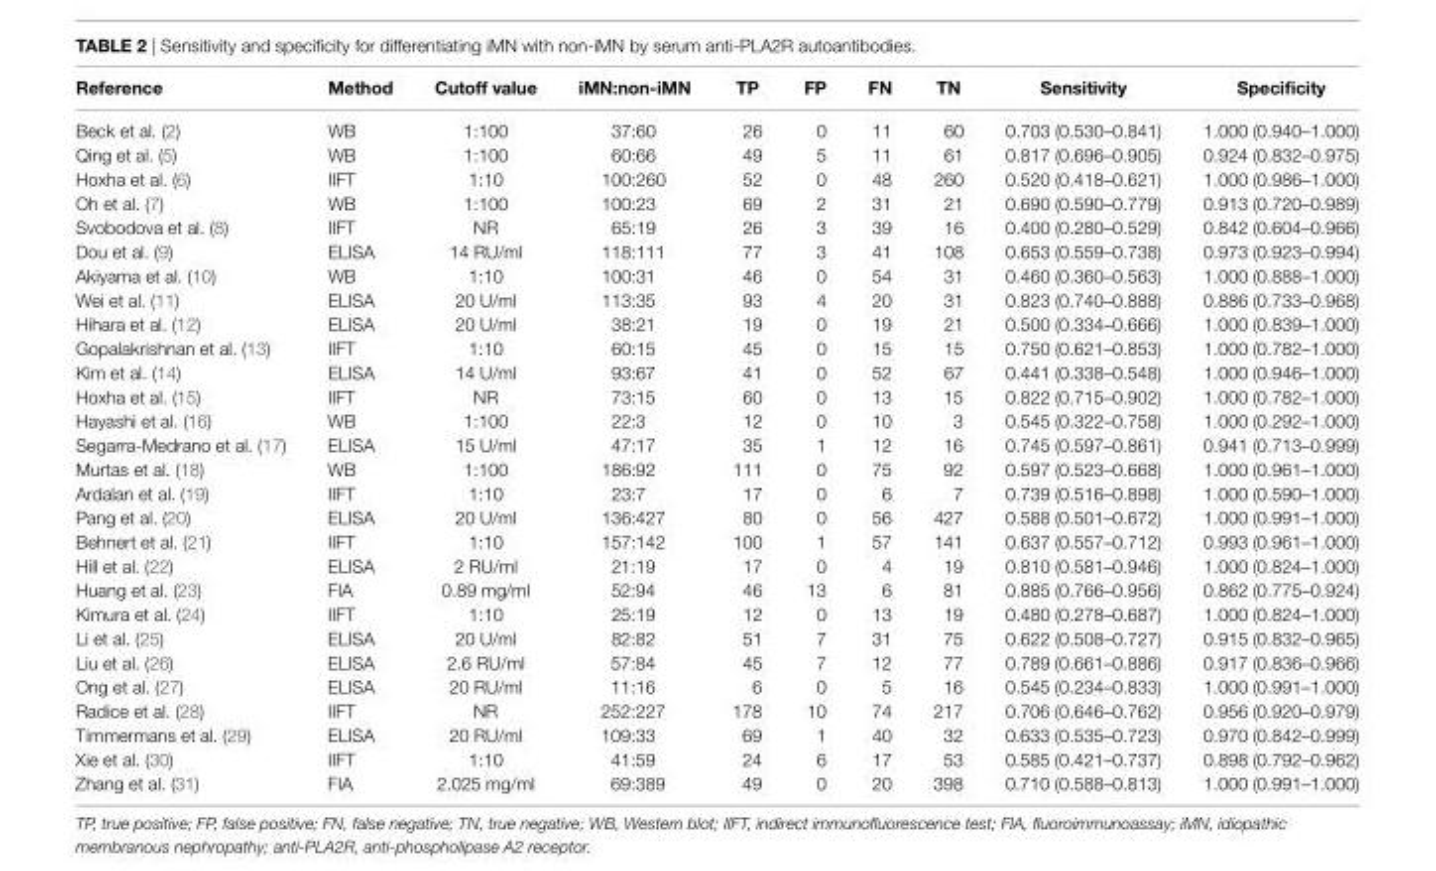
<table><thead><tr><td>Reference</td><td>method</td><td>cutoff value</td><td>imN:non-imN</td><td>tP</td><td>FP</td><td>FN</td><td>tN</td><td>Sensitivity</td><td>Specificity</td></tr></thead><tbody><tr><td>Beck et al. (2)</td><td>WB</td><td>1:100</td><td>37:60</td><td>26</td><td>0</td><td>11</td><td>60</td><td>0.703 (0.530–0.841)</td><td>1.000 (0.940–1.000)</td></tr><tr><td>Qing et al. (5)</td><td>WB</td><td>1:100</td><td>60:66</td><td>49</td><td>5</td><td>11</td><td>61</td><td>0.817 (0.696–0.905)</td><td>0.924 (0.832–0.975)</td></tr><tr><td>Hoxha et al. (6)</td><td>IIFT</td><td>1:10</td><td>100:260</td><td>52</td><td>0</td><td>48</td><td>260</td><td>0.520 (0.418–0.621)</td><td>1.000 (0.986–1.000)</td></tr><tr><td>Oh et al. (7)</td><td>WB</td><td>1:100</td><td>100:23</td><td>69</td><td>2</td><td>31</td><td>21</td><td>0.690 (0.590–0.779)</td><td>0.913 (0.720–0.989)</td></tr><tr><td>Svobodova et al. (8)</td><td>IIFT</td><td>NR</td><td>65:19</td><td>26</td><td>3</td><td>39</td><td>16</td><td>0.400 (0.280–0.529)</td><td>0.842 (0.604–0.966)</td></tr><tr><td>Dou et al. (9)</td><td>ELISA</td><td>14 RU/ml</td><td>118:111</td><td>77</td><td>3</td><td>41</td><td>108</td><td>0.653 (0.559–0.738)</td><td>0.973 (0.923–0.994)</td></tr><tr><td>Akiyama et al. (10)</td><td>WB</td><td>1:10</td><td>100:31</td><td>46</td><td>0</td><td>54</td><td>31</td><td>0.460 (0.360–0.563)</td><td>1.000 (0.888–1.000)</td></tr><tr><td>Wei et al. (11)</td><td>ELISA</td><td>20 U/ml</td><td>113:35</td><td>93</td><td>4</td><td>20</td><td>31</td><td>0.823 (0.740–0.888)</td><td>0.886 (0.733–0.968)</td></tr><tr><td>Hihara et al. (12)</td><td>ELISA</td><td>20 U/ml</td><td>38:21</td><td>19</td><td>0</td><td>19</td><td>21</td><td>0.500 (0.334–0.666)</td><td>1.000 (0.839–1.000)</td></tr><tr><td>Gopalakrishnan et al. (13)</td><td>IIFT</td><td>1:10</td><td>60:15</td><td>45</td><td>0</td><td>15</td><td>15</td><td>0.750 (0.621–0.853)</td><td>1.000 (0.782–1.000)</td></tr><tr><td>Kim et al. (14)</td><td>ELISA</td><td>14 U/ml</td><td>93:67</td><td>41</td><td>0</td><td>52</td><td>67</td><td>0.441 (0.338–0.548)</td><td>1.000 (0.946–1.000)</td></tr><tr><td>Hoxha et al. (15)</td><td>IIFT</td><td>NR</td><td>73:15</td><td>60</td><td>0</td><td>13</td><td>15</td><td>0.822 (0.715–0.902)</td><td>1.000 (0.782–1.000)</td></tr><tr><td>Hayashi et al. (16)</td><td>WB</td><td>1:100</td><td>22:3</td><td>12</td><td>0</td><td>10</td><td>3</td><td>0.545 (0.322–0.758)</td><td>1.000 (0.292–1.000)</td></tr><tr><td>Segarra-Medrano et al. (17)</td><td>ELISA</td><td>15 U/ml</td><td>47:17</td><td>35</td><td>1</td><td>12</td><td>16</td><td>0.745 (0.597–0.861)</td><td>0.941 (0.713–0.999)</td></tr><tr><td>Murtas et al. (18)</td><td>WB</td><td>1:100</td><td>186:92</td><td>111</td><td>0</td><td>75</td><td>92</td><td>0.597 (0.523–0.668)</td><td>1.000 (0.961–1.000)</td></tr><tr><td>Ardalan et al. (19)</td><td>IIFT</td><td>1:10</td><td>23:7</td><td>17</td><td>0</td><td>6</td><td>7</td><td>0.739 (0.516–0.898)</td><td>1.000 (0.590–1.000)</td></tr><tr><td>Pang et al. (20)</td><td>ELISA</td><td>20 U/ml</td><td>136:427</td><td>80</td><td>0</td><td>56</td><td>427</td><td>0.588 (0.501–0.672)</td><td>1.000 (0.991–1.000)</td></tr><tr><td>Behnert et al. (21)</td><td>IIFT</td><td>1:10</td><td>157:142</td><td>100</td><td>1</td><td>57</td><td>141</td><td>0.637 (0.557–0.712)</td><td>0.993 (0.961–1.000)</td></tr><tr><td>Hill et al. (22)</td><td>ELISA</td><td>2 RU/ml</td><td>21:19</td><td>17</td><td>0</td><td>4</td><td>19</td><td>0.810 (0.581–0.946)</td><td>1.000 (0.824–1.000)</td></tr><tr><td>Huang et al. (23)</td><td>FIA</td><td>0.89 mg/ml</td><td>52:94</td><td>46</td><td>13</td><td>6</td><td>81</td><td>0.885 (0.766–0.956)</td><td>0.862 (0.775–0.924)</td></tr><tr><td>Kimura et al. (24)</td><td>IIFT</td><td>1:10</td><td>25:19</td><td>12</td><td>0</td><td>13</td><td>19</td><td>0.480 (0.278–0.687)</td><td>1.000 (0.824–1.000)</td></tr><tr><td>Li et al. (25)</td><td>ELISA</td><td>20 U/ml</td><td>82:82</td><td>51</td><td>7</td><td>31</td><td>75</td><td>0.622 (0.508–0.727)</td><td>0.915 (0.832–0.965)</td></tr><tr><td>Liu et al. (26)</td><td>ELISA</td><td>2.6 RU/ml</td><td>57:84</td><td>45</td><td>7</td><td>12</td><td>77</td><td>0.789 (0.661–0.886)</td><td>0.917 (0.836–0.966)</td></tr><tr><td>Ong et al. (27)</td><td>ELISA</td><td>20 RU/ml</td><td>11:16</td><td>6</td><td>0</td><td>5</td><td>16</td><td>0.545 (0.234–0.833)</td><td>1.000 (0.991–1.000)</td></tr><tr><td>Radice et al. (28)</td><td>IIFT</td><td>NR</td><td>252:227</td><td>178</td><td>10</td><td>74</td><td>217</td><td>0.706 (0.646–0.762)</td><td>0.956 (0.920–0.979)</td></tr><tr><td>Timmermans et al. (29)</td><td>ELISA</td><td>20 RU/ml</td><td>109:33</td><td>69</td><td>1</td><td>40</td><td>32</td><td>0.633 (0.535–0.723)</td><td>0.970 (0.842–0.999)</td></tr><tr><td>Xie et al. (30)</td><td>IIFT</td><td>1:10</td><td>41:59</td><td>24</td><td>6</td><td>17</td><td>53</td><td>0.585 (0.421–0.737)</td><td>0.898 (0.792–0.962)</td></tr><tr><td>Zhang et al. (31)</td><td>FIA</td><td>2.025 mg/ml</td><td>69:389</td><td>49</td><td>0</td><td>20</td><td>398</td><td>0.710 (0.588–0.813)</td><td>1.000 (0.991–1.000)</td></tr></tbody></table>